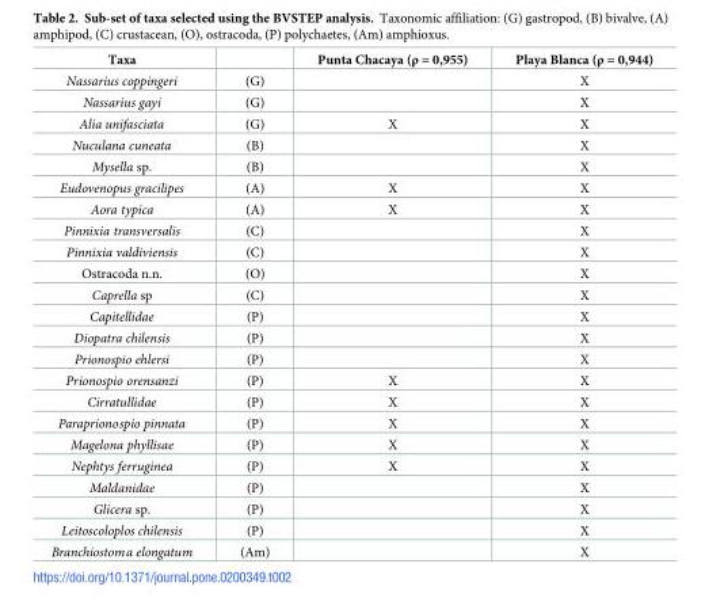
<table><thead><tr><td>Taxa</td><td></td><td>Punta Chacaya (ρ = 0,955)</td><td>Playa Blanca (ρ = 0,944)</td></tr></thead><tbody><tr><td>Nassarius coppingeri</td><td>(G)</td><td></td><td>X</td></tr><tr><td>Nassarius gayi</td><td>(G)</td><td></td><td>X</td></tr><tr><td>Alia unifasciata</td><td>(G)</td><td>X</td><td>X</td></tr><tr><td>Nuculana cuneata</td><td>(B)</td><td></td><td>X</td></tr><tr><td>Mysella sp.</td><td>(B)</td><td></td><td>X</td></tr><tr><td>Eudovenopus gracilipes</td><td>(A)</td><td>X</td><td>X</td></tr><tr><td>Aora typica</td><td>(A)</td><td>X</td><td>X</td></tr><tr><td>Pinnixia transversalis</td><td>(C)</td><td></td><td>X</td></tr><tr><td>Pinnixia valdiviensis</td><td>(C)</td><td></td><td>X</td></tr><tr><td>Ostracoda n.n.</td><td>(O)</td><td></td><td>X</td></tr><tr><td>Caprella sp</td><td>(C)</td><td></td><td>X</td></tr><tr><td>Capitellidae</td><td>(P)</td><td></td><td>X</td></tr><tr><td>Diopatra chilensis</td><td>(P)</td><td></td><td>X</td></tr><tr><td>Prionospio ehlersi</td><td>(P)</td><td></td><td>X</td></tr><tr><td>Prionospio orensanzi</td><td>(P)</td><td>X</td><td>X</td></tr><tr><td>Cirratullidae</td><td>(P)</td><td>X</td><td>X</td></tr><tr><td>Paraprionospio pinnata</td><td>(P)</td><td>X</td><td>X</td></tr><tr><td>Magelona phyllisae</td><td>(P)</td><td>X</td><td>X</td></tr><tr><td>Nephtys ferruginea</td><td>(P)</td><td>X</td><td>X</td></tr><tr><td>Maldanidae</td><td>(P)</td><td></td><td>X</td></tr><tr><td>Glicera sp.</td><td>(P)</td><td></td><td>X</td></tr><tr><td>Leitoscoloplos chilensis</td><td>(P)</td><td></td><td>X</td></tr><tr><td>Branchiostoma elongatum</td><td>(Am)</td><td></td><td>X</td></tr></tbody></table>